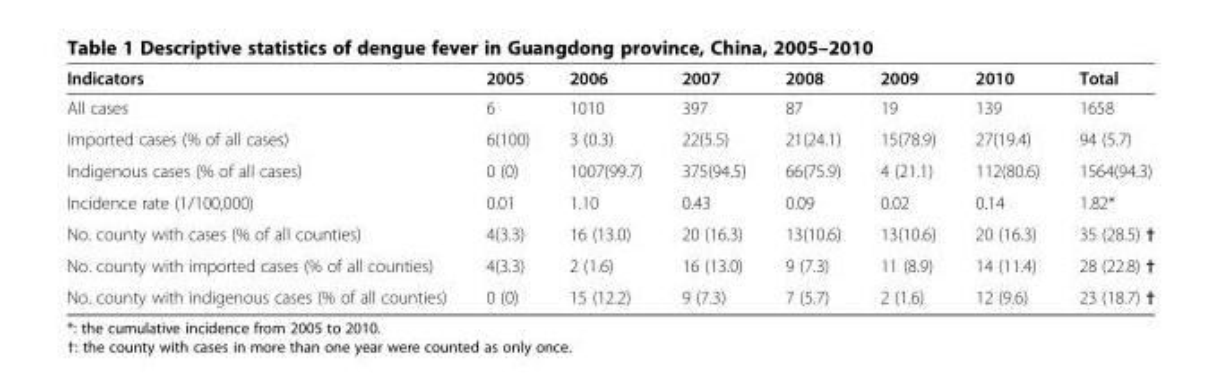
<table><thead><tr><td>Indicators</td><td>2005</td><td>2006</td><td>2007</td><td>2008</td><td>2009</td><td>2010</td><td>Total</td></tr></thead><tbody><tr><td>All cases</td><td>6</td><td>1010</td><td>397</td><td>87</td><td>19</td><td>139</td><td>1658</td></tr><tr><td>Imported cases (% of all cases)</td><td>6(100)</td><td>3 (0.3)</td><td>22(5.5)</td><td>21(24.1)</td><td>15(78.9)</td><td>27(19.4)</td><td>94 (5.7)</td></tr><tr><td>Indigenous cases (% of all cases)</td><td>0 (0)</td><td>1007(99.7)</td><td>375(94.5)</td><td>66(75.9)</td><td>4 (21.1)</td><td>112(80.6)</td><td>1564(94.3)</td></tr><tr><td>Incidence rate (1/100,000)</td><td>0.01</td><td>1.10</td><td>0.43</td><td>0.09</td><td>0.02</td><td>0.14</td><td>1.82*</td></tr><tr><td>No. county with cases (% of all counties)</td><td>4(3.3)</td><td>16 (13.0)</td><td>20 (16.3)</td><td>13(10.6)</td><td>13(10.6)</td><td>20 (16.3)</td><td>35 (28.5) †</td></tr><tr><td>No. county with imported cases (% of all counties)</td><td>4(3.3)</td><td>2 (1.6)</td><td>16 (13.0)</td><td>9 (7.3)</td><td>11 (8.9)</td><td>14 (11.4)</td><td>28 (22.8) †</td></tr><tr><td>No. county with indigenous cases (% of all counties)</td><td>0 (0)</td><td>15 (12.2)</td><td>9 (7.3)</td><td>7 (5.7)</td><td>2 (1.6)</td><td>12 (9.6)</td><td>23 (18.7) †</td></tr></tbody></table>